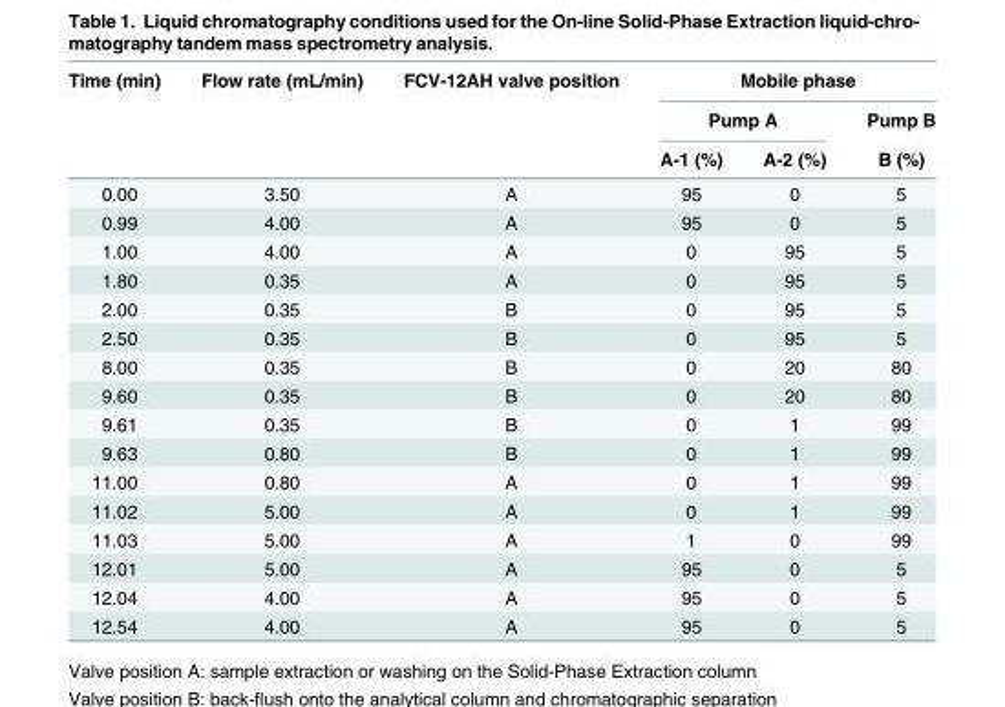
<table><thead><tr><td rowspan="3">Time (min)</td><td rowspan="3">Flow rate (mL/min)</td><td rowspan="3">FCV-12AH valve position</td><td colspan="3">Mobile phase</td></tr><tr><td colspan="2">Pump A</td><td rowspan="2">Pump B B (%)</td></tr><tr><td>A-1 (%)</td><td>A-2 (%)</td></tr></thead><tbody><tr><td>0.00</td><td>3.50</td><td>A</td><td>95</td><td>0</td><td>5</td></tr><tr><td>0.99</td><td>4.00</td><td>A</td><td>95</td><td>0</td><td>5</td></tr><tr><td>1.00</td><td>4.00</td><td>A</td><td>0</td><td>95</td><td>5</td></tr><tr><td>1.80</td><td>0.35</td><td>A</td><td>0</td><td>95</td><td>5</td></tr><tr><td>2.00</td><td>0.35</td><td>B</td><td>0</td><td>95</td><td>5</td></tr><tr><td>2.50</td><td>0.35</td><td>B</td><td>0</td><td>95</td><td>5</td></tr><tr><td>8.00</td><td>0.35</td><td>B</td><td>0</td><td>20</td><td>80</td></tr><tr><td>9.60</td><td>0.35</td><td>B</td><td>0</td><td>20</td><td>80</td></tr><tr><td>9.61</td><td>0.35</td><td>B</td><td>0</td><td>1</td><td>99</td></tr><tr><td>9.63</td><td>0.80</td><td>B</td><td>0</td><td>1</td><td>99</td></tr><tr><td>11.00</td><td>0.80</td><td>A</td><td>0</td><td>1</td><td>99</td></tr><tr><td>11.02</td><td>5.00</td><td>A</td><td>0</td><td>1</td><td>99</td></tr><tr><td>11.03</td><td>5.00</td><td>A</td><td>1</td><td>0</td><td>99</td></tr><tr><td>12.01</td><td>5.00</td><td>A</td><td>95</td><td>0</td><td>5</td></tr><tr><td>12.04</td><td>4.00</td><td>A</td><td>95</td><td>0</td><td>5</td></tr><tr><td>12.54</td><td>4.00</td><td>A</td><td>95</td><td>0</td><td>5</td></tr></tbody></table>